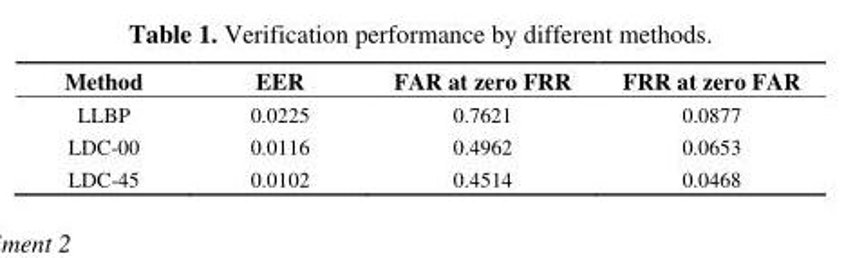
<table><thead><tr><td>Method</td><td>EER</td><td>FAR at zero FRR</td><td>FRR at zero FAR</td></tr></thead><tbody><tr><td>LLBP</td><td>0.0225</td><td>0.7621</td><td>0.0877</td></tr><tr><td>LDC-00</td><td>0.0116</td><td>0.4962</td><td>0.0653</td></tr><tr><td>LDC-45</td><td>0.0102</td><td>0.4514</td><td>0.0468</td></tr></tbody></table>